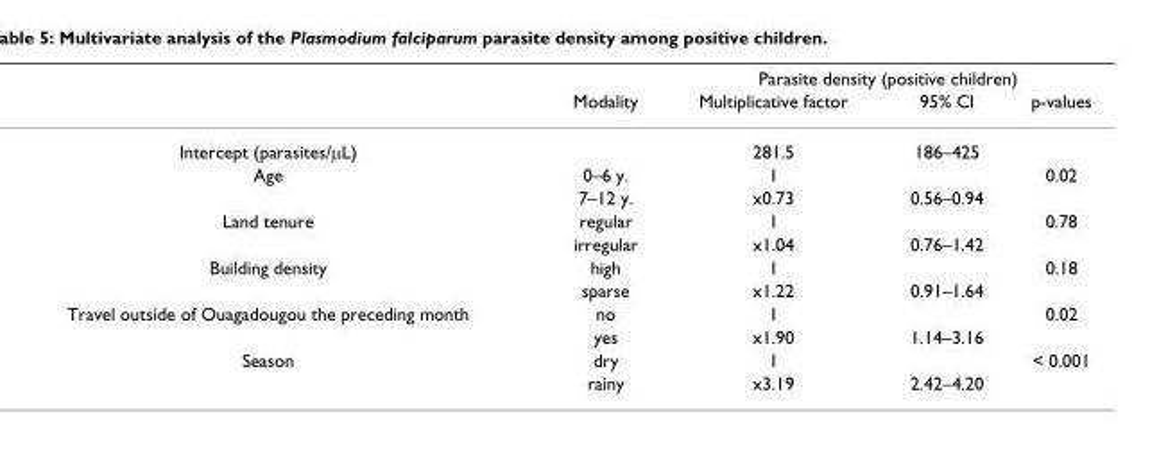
<table><thead><tr><td rowspan="2"></td><td rowspan="2">Modality</td><td colspan="3">Parasite density (positive children)</td></tr><tr><td>Multiplicative factor</td><td>95% CI</td><td>p-values</td></tr></thead><tbody><tr><td>Intercept (parasites/μL)</td><td></td><td>281.5</td><td>186–425</td><td></td></tr><tr><td rowspan="2">Age</td><td>0–6 y.</td><td>1</td><td></td><td>0.02</td></tr><tr><td>7–12 y.</td><td>x0.73</td><td>0.56–0.94</td><td></td></tr><tr><td rowspan="2">Land tenure</td><td>regular</td><td>1</td><td></td><td>0.78</td></tr><tr><td>irregular</td><td>x1.04</td><td>0.76–1.42</td><td></td></tr><tr><td rowspan="2">Building density</td><td>high</td><td>1</td><td></td><td>0.18</td></tr><tr><td>sparse</td><td>x1.22</td><td>0.91–1.64</td><td></td></tr><tr><td rowspan="2">Travel outside of Ouagadougou the preceding month</td><td>no</td><td>1</td><td></td><td>0.02</td></tr><tr><td>yes</td><td>x1.90</td><td>1.14–3.16</td><td></td></tr><tr><td rowspan="2">Season</td><td>dry</td><td>1</td><td></td><td>&lt; 0.001</td></tr><tr><td>rainy</td><td>x3.19</td><td>2.42–4.20</td><td></td></tr></tbody></table>